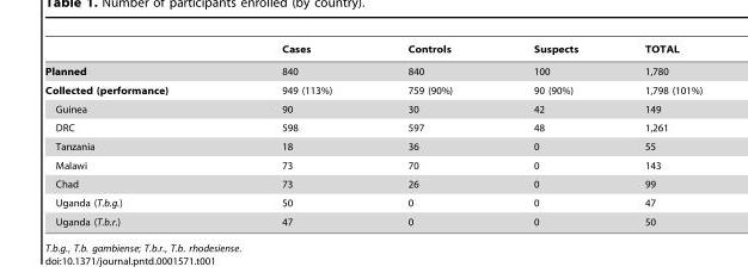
<table><thead><tr><td></td><td>Cases</td><td>Controls</td><td>Suspects</td><td>TOTAL</td></tr></thead><tbody><tr><td>Planned</td><td>840</td><td>840</td><td>100</td><td>1,780</td></tr><tr><td>Collected (performance)</td><td>949 (113%)</td><td>759 (90%)</td><td>90 (90%)</td><td>1,798 (101%)</td></tr><tr><td>Guinea</td><td>90</td><td>30</td><td>42</td><td>149</td></tr><tr><td>DRC</td><td>598</td><td>597</td><td>48</td><td>1,261</td></tr><tr><td>Tanzania</td><td>18</td><td>36</td><td>0</td><td>55</td></tr><tr><td>Malawi</td><td>73</td><td>70</td><td>0</td><td>143</td></tr><tr><td>Chad</td><td>73</td><td>26</td><td>0</td><td>99</td></tr><tr><td>Uganda (T.b.g.)</td><td>50</td><td>0</td><td>0</td><td>47</td></tr><tr><td>Uganda (T.b.r.)</td><td>47</td><td>0</td><td>0</td><td>50</td></tr></tbody></table>